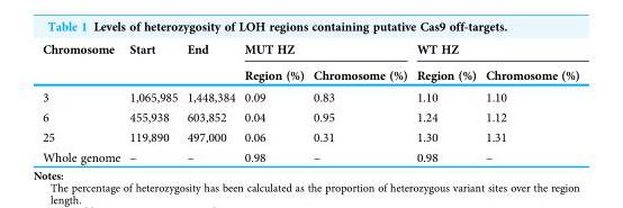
<table><thead><tr><td rowspan="2">Chromosome</td><td rowspan="2">Start</td><td rowspan="2">End</td><td colspan="2">MUT HZ</td><td colspan="2">WT HZ</td></tr><tr><td>Region (%)</td><td>Chromosome (%)</td><td>Region (%)</td><td>Chromosome (%)</td></tr></thead><tbody><tr><td>3</td><td>1,065,985</td><td>1,448,384</td><td>0.09</td><td>0.83</td><td>1.10</td><td>1.10</td></tr><tr><td>6</td><td>455,938</td><td>603,852</td><td>0.04</td><td>0.95</td><td>1.24</td><td>1.12</td></tr><tr><td>25</td><td>119,890</td><td>497,000</td><td>0.06</td><td>0.31</td><td>1.30</td><td>1.31</td></tr><tr><td>Whole genome</td><td>–</td><td>–</td><td>0.98</td><td>–</td><td>0.98</td><td>–</td></tr></tbody></table>